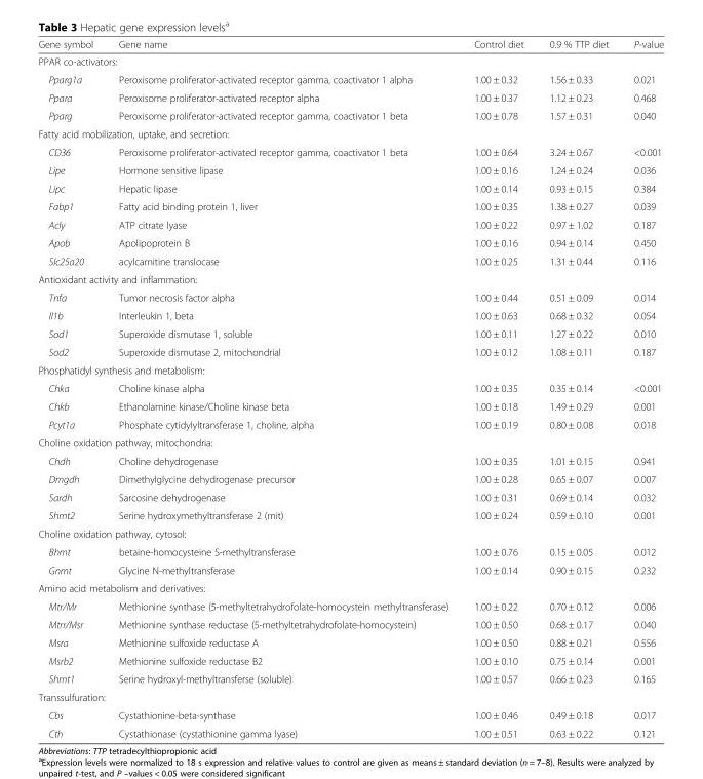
<table><thead><tr><td>Gene symbol</td><td>Gene name</td><td>Control diet</td><td>0.9 % TTP diet</td><td>P-value</td></tr></thead><tbody><tr><td colspan="5">PPAR co-activators:</td></tr><tr><td>Pparg1a</td><td>Peroxisome proliferator-activated receptor gamma, coactivator 1 alpha</td><td>1.00 ± 0.32</td><td>1.56 ± 0.33</td><td>0.021</td></tr><tr><td>Ppara</td><td>Peroxisome proliferator-activated receptor alpha</td><td>1.00 ± 0.37</td><td>1.12 ± 0.23</td><td>0.468</td></tr><tr><td>Pparg</td><td>Peroxisome proliferator-activated receptor gamma, coactivator 1 beta</td><td>1.00 ± 0.78</td><td>1.57 ± 0.31</td><td>0.040</td></tr><tr><td colspan="5">Fatty acid mobilization, uptake, and secretion:</td></tr><tr><td>CD36</td><td>Peroxisome proliferator-activated receptor gamma, coactivator 1 beta</td><td>1.00 ± 0.64</td><td>3.24 ± 0.67</td><td>&lt;0.001</td></tr><tr><td>Lipe</td><td>Hormone sensitive lipase</td><td>1.00 ± 0.16</td><td>1.24 ± 0.24</td><td>0.036</td></tr><tr><td>Lipc</td><td>Hepatic lipase</td><td>1.00 ± 0.14</td><td>0.93 ± 0.15</td><td>0.384</td></tr><tr><td>Fabp1</td><td>Fatty acid binding protein 1, liver</td><td>1.00 ± 0.35</td><td>1.38 ± 0.27</td><td>0.039</td></tr><tr><td>Acly</td><td>ATP citrate lyase</td><td>1.00 ± 0.22</td><td>0.97 ± 1.02</td><td>0.187</td></tr><tr><td>Apob</td><td>Apolipoprotein B</td><td>1.00 ± 0.16</td><td>0.94 ± 0.14</td><td>0.450</td></tr><tr><td>Slc25a20</td><td>acylcarnitine translocase</td><td>1.00 ± 0.25</td><td>1.31 ± 0.44</td><td>0.116</td></tr><tr><td colspan="5">Antioxidant activity and inflammation:</td></tr><tr><td>Tnfa</td><td>Tumor necrosis factor alpha</td><td>1.00 ± 0.44</td><td>0.51 ± 0.09</td><td>0.014</td></tr><tr><td>Il1b</td><td>Interleukin 1, beta</td><td>1.00 ± 0.63</td><td>0.68 ± 0.32</td><td>0.054</td></tr><tr><td>Sod1</td><td>Superoxide dismutase 1, soluble</td><td>1.00 ± 0.11</td><td>1.27 ± 0.22</td><td>0.010</td></tr><tr><td>Sod2</td><td>Superoxide dismutase 2, mitochondrial</td><td>1.00 ± 0.12</td><td>1.08 ± 0.11</td><td>0.187</td></tr><tr><td colspan="5">Phosphatidyl synthesis and metabolism:</td></tr><tr><td>Chka</td><td>Choline kinase alpha</td><td>1.00 ± 0.35</td><td>0.35 ± 0.14</td><td>&lt;0.001</td></tr><tr><td>Chkb</td><td>Ethanolamine kinase/Choline kinase beta</td><td>1.00 ± 0.18</td><td>1.49 ± 0.29</td><td>0.001</td></tr><tr><td>Pcyt1a</td><td>Phosphate cytidylyltransferase 1, choline, alpha</td><td>1.00 ± 0.19</td><td>0.80 ± 0.08</td><td>0.018</td></tr><tr><td colspan="5">Choline oxidation pathway, mitochondria:</td></tr><tr><td>Chdh</td><td>Choline dehydrogenase</td><td>1.00 ± 0.35</td><td>1.01 ± 0.15</td><td>0.941</td></tr><tr><td>Dmgdh</td><td>Dimethylglycine dehydrogenase precursor</td><td>1.00 ± 0.28</td><td>0.65 ± 0.07</td><td>0.007</td></tr><tr><td>Sardh</td><td>Sarcosine dehydrogenase</td><td>1.00 ± 0.31</td><td>0.69 ± 0.14</td><td>0.032</td></tr><tr><td>Shmt2</td><td>Serine hydroxymethyltransferase 2 (mit)</td><td>1.00 ± 0.24</td><td>0.59 ± 0.10</td><td>0.001</td></tr><tr><td colspan="5">Choline oxidation pathway, cytosol:</td></tr><tr><td>Bhmt</td><td>betaine-homocysteine S-methyltransferase</td><td>1.00 ± 0.76</td><td>0.15 ± 0.05</td><td>0.012</td></tr><tr><td>Gnmt</td><td>Glycine N-methyltransferase</td><td>1.00 ± 0.14</td><td>0.90 ± 0.15</td><td>0.232</td></tr><tr><td colspan="5">Amino acid metabolism and derivatives:</td></tr><tr><td>Mtr/Mr</td><td>Methionine synthase (5-methyltetrahydrofolate-homocystein methyltransferase)</td><td>1.00 ± 0.22</td><td>0.70 ± 0.12</td><td>0.006</td></tr><tr><td>Mtrr/Msr</td><td>Methionine synthase reductase (5-methyltetrahydrofolate-homocystein)</td><td>1.00 ± 0.50</td><td>0.68 ± 0.17</td><td>0.040</td></tr><tr><td>Msra</td><td>Methionine sulfoxide reductase A</td><td>1.00 ± 0.50</td><td>0.88 ± 0.21</td><td>0.556</td></tr><tr><td>Msrb2</td><td>Methionine sulfoxide reductase B2</td><td>1.00 ± 0.10</td><td>0.75 ± 0.14</td><td>0.001</td></tr><tr><td>Shmt1</td><td>Serine hydroxyl-methyltransferse (soluble)</td><td>1.00 ± 0.57</td><td>0.66 ± 0.23</td><td>0.165</td></tr><tr><td colspan="5">Transsulfuration:</td></tr><tr><td>Cbs</td><td>Cystathionine-beta-synthase</td><td>1.00 ± 0.46</td><td>0.49 ± 0.18</td><td>0.017</td></tr><tr><td>Cth</td><td>Cystathionase (cystathionine gamma lyase)</td><td>1.00 ± 0.51</td><td>0.63 ± 0.22</td><td>0.121</td></tr></tbody></table>